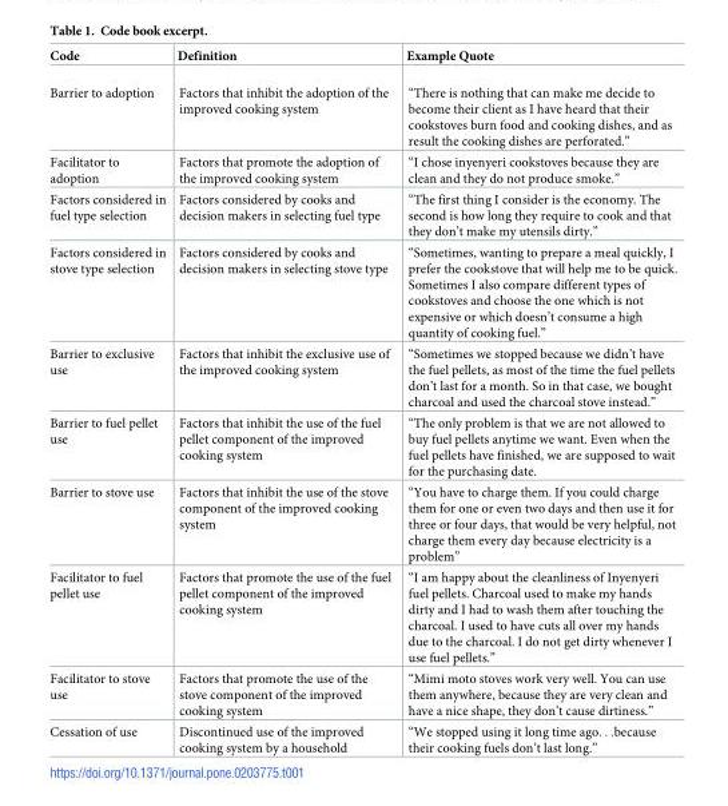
<table><thead><tr><td>Code</td><td>Definition</td><td>Example Quote</td></tr></thead><tbody><tr><td>Barrier to adoption</td><td>Factors that inhibit the adoption of the improved cooking system</td><td>“There is nothing that can make me decide to become their client as I have heard that their cookstoves burn food and cooking dishes, and as result the cooking dishes are perforated.”</td></tr><tr><td>Facilitator to adoption</td><td>Factors that promote the adoption of the improved cooking system</td><td>“I chose inyenyeri cookstoves because they are clean and they do not produce smoke.”</td></tr><tr><td>Factors considered in fuel type selection</td><td>Factors considered by cooks and decision makers in selecting fuel type</td><td>“The first thing I consider is the economy. The second is how long they require to cook and that they don’t make my utensils dirty.”</td></tr><tr><td>Factors considered in stove type selection</td><td>Factors considered by cooks and decision makers in selecting stove type</td><td>“Sometimes, wanting to prepare a meal quickly, I prefer the cookstove that will help me to be quick. Sometimes I also compare different types of cookstoves and choose the one which is not expensive or which doesn’t consume a high quantity of cooking fuel.”</td></tr><tr><td>Barrier to exclusive use</td><td>Factors that inhibit the exclusive use of the improved cooking system</td><td>“Sometimes we stopped because we didn’t have the fuel pellets, as most of the time the fuel pellets don’t last for a month. So in that case, we bought charcoal and used the charcoal stove instead.”</td></tr><tr><td>Barrier to fuel pellet use</td><td>Factors that inhibit the use of the fuel pellet component of the improved cooking system</td><td>“The only problem is that we are not allowed to buy fuel pellets anytime we want. Even when the fuel pellets have finished, we are supposed to wait for the purchasing date.</td></tr><tr><td>Barrier to stove use</td><td>Factors that inhibit the use of the stove component of the improved cooking system</td><td>“You have to charge them. If you could charge them for one or even two days and then use it for three or four days, that would be very helpful, not charge them every day because electricity is a problem”</td></tr><tr><td>Facilitator to fuel pellet use</td><td>Factors that promote the use of the fuel pellet component of the improved cooking system</td><td>“I am happy about the cleanliness of Inyenyeri fuel pellets. Charcoal used to make my hands dirty and I had to wash them after touching the charcoal. I used to have cuts all over my hands due to the charcoal. I do not get dirty whenever I use fuel pellets.”</td></tr><tr><td>Facilitator to stove use</td><td>Factors that promote the use of the stove component of the improved cooking system</td><td>“Mimi moto stoves work very well. You can use them anywhere, because they are very clean and have a nice shape, they don’t cause dirtiness.”</td></tr><tr><td>Cessation of use</td><td>Discontinued use of the improved cooking system by a household</td><td>“We stopped using it long time ago. . .because their cooking fuels don’t last long.”</td></tr></tbody></table>